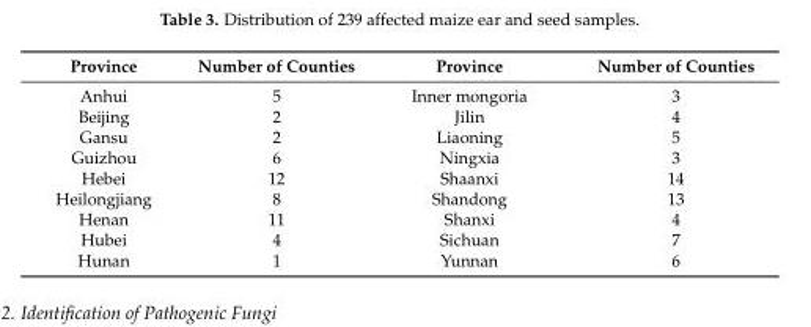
<table><thead><tr><td>Province</td><td>Number of Counties</td><td>Province</td><td>Number of Counties</td></tr></thead><tbody><tr><td>Anhui</td><td>5</td><td>Inner mongoria</td><td>3</td></tr><tr><td>Beijing</td><td>2</td><td>Jilin</td><td>4</td></tr><tr><td>Gansu</td><td>2</td><td>Liaoning</td><td>5</td></tr><tr><td>Guizhou</td><td>6</td><td>Ningxia</td><td>3</td></tr><tr><td>Hebei</td><td>12</td><td>Shaanxi</td><td>14</td></tr><tr><td>Heilongjiang</td><td>8</td><td>Shandong</td><td>13</td></tr><tr><td>Henan</td><td>11</td><td>Shanxi</td><td>4</td></tr><tr><td>Hubei</td><td>4</td><td>Sichuan</td><td>7</td></tr><tr><td>Hunan</td><td>1</td><td>Yunnan</td><td>6</td></tr></tbody></table>